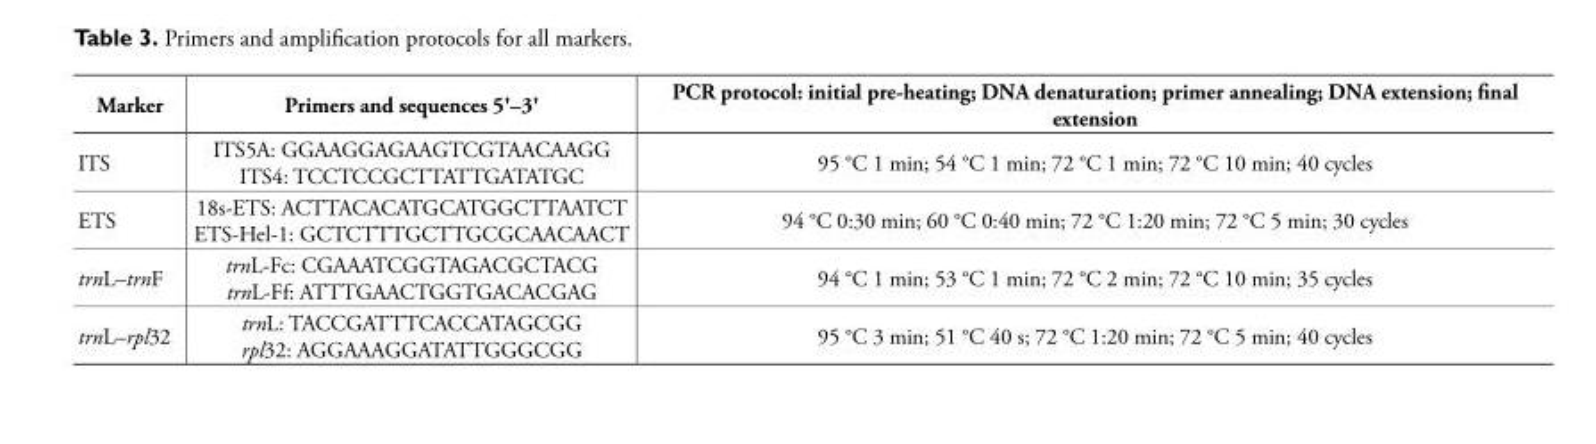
<table><thead><tr><td>Marker</td><td>Primers and sequences 5′–3′</td><td>PCR protocol: initial pre-heating; DNA denaturation; primer annealing; DNA extension; final extension</td></tr></thead><tbody><tr><td>ITS</td><td>ITS5A: GGAAGGAGAAGTCGTAACAAGG ITS4: TCCTCCGCTTATTGATATGC</td><td>95 °C 1 min; 54 °C 1 min; 72 °C 1 min; 72 °C 10 min; 40 cycles</td></tr><tr><td>ETS</td><td>18s-ETS: ACTTACACATGCATGGCTTAATCT ETS-Hel-1: GCTCTTTGCTTGCGCAACAACT</td><td>94 °C 0:30 min; 60 °C 0:40 min; 72 °C 1:20 min; 72 °C 5 min; 30 cycles</td></tr><tr><td>trnL–trnF</td><td>trnL-Fc: CGAAATCGGTAGACGCTACG trnL-Ff: ATTTGAACTGGTGACACGAG</td><td>94 °C 1 min; 53 °C 1 min; 72 °C 2 min; 72 °C 10 min; 35 cycles</td></tr><tr><td>trnL–rpl32</td><td>trnL: TACCGATTTCACCATAGCGG rpl32: AGGAAAGGATATTGGGCGG</td><td>95 °C 3 min; 51 °C 40 s; 72 °C 1:20 min; 72 °C 5 min; 40 cycles</td></tr></tbody></table>